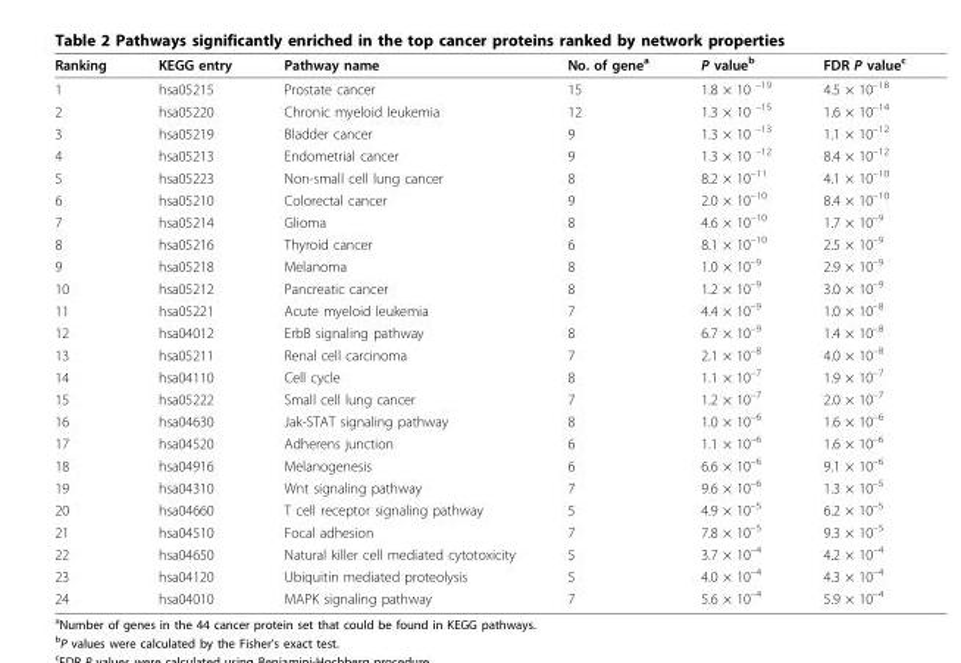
<table><thead><tr><td>Ranking</td><td>KEGG entry</td><td>Pathway name</td><td>No. of gene<sup>a</sup></td><td>P value<sup>b</sup></td><td>FDR P value<sup>c</sup></td></tr></thead><tbody><tr><td>1</td><td>hsa05215</td><td>Prostate cancer</td><td>15</td><td>1.8 × 10 <sup>–19</sup></td><td>4.5 × 10<sup>–18</sup></td></tr><tr><td>2</td><td>hsa05220</td><td>Chronic myeloid leukemia</td><td>12</td><td>1.3 × 10 <sup>–15</sup></td><td>1.6 × 10<sup>–14</sup></td></tr><tr><td>3</td><td>hsa05219</td><td>Bladder cancer</td><td>9</td><td>1.3 × 10 <sup>–13</sup></td><td>1.1 × 10<sup>–12</sup></td></tr><tr><td>4</td><td>hsa05213</td><td>Endometrial cancer</td><td>9</td><td>1.3 × 10 <sup>–12</sup></td><td>8.4 × 10<sup>–12</sup></td></tr><tr><td>5</td><td>hsa05223</td><td>Non-small cell lung cancer</td><td>8</td><td>8.2 × 10<sup>–11</sup></td><td>4.1 × 10<sup>–10</sup></td></tr><tr><td>6</td><td>hsa05210</td><td>Colorectal cancer</td><td>9</td><td>2.0 × 10<sup>–10</sup></td><td>8.4 × 10<sup>–10</sup></td></tr><tr><td>7</td><td>hsa05214</td><td>Glioma</td><td>8</td><td>4.6 × 10<sup>–10</sup></td><td>1.7 × 10<sup>–9</sup></td></tr><tr><td>8</td><td>hsa05216</td><td>Thyroid cancer</td><td>6</td><td>8.1 × 10<sup>–10</sup></td><td>2.5 × 10<sup>–9</sup></td></tr><tr><td>9</td><td>hsa05218</td><td>Melanoma</td><td>8</td><td>1.0 × 10<sup>–9</sup></td><td>2.9 × 10<sup>–9</sup></td></tr><tr><td>10</td><td>hsa05212</td><td>Pancreatic cancer</td><td>8</td><td>1.2 × 10<sup>–9</sup></td><td>3.0 × 10<sup>–9</sup></td></tr><tr><td>11</td><td>hsa05221</td><td>Acute myeloid leukemia</td><td>7</td><td>4.4 × 10<sup>–9</sup></td><td>1.0 × 10<sup>–8</sup></td></tr><tr><td>12</td><td>hsa04012</td><td>ErbB signaling pathway</td><td>8</td><td>6.7 × 10<sup>–9</sup></td><td>1.4 × 10<sup>–8</sup></td></tr><tr><td>13</td><td>hsa05211</td><td>Renal cell carcinoma</td><td>7</td><td>2.1 × 10<sup>–8</sup></td><td>4.0 × 10<sup>–8</sup></td></tr><tr><td>14</td><td>hsa04110</td><td>Cell cycle</td><td>8</td><td>1.1 × 10<sup>–7</sup></td><td>1.9 × 10<sup>–7</sup></td></tr><tr><td>15</td><td>hsa05222</td><td>Small cell lung cancer</td><td>7</td><td>1.2 × 10<sup>–7</sup></td><td>2.0 × 10<sup>–7</sup></td></tr><tr><td>16</td><td>hsa04630</td><td>Jak-STAT signaling pathway</td><td>8</td><td>1.0 × 10<sup>–6</sup></td><td>1.6 × 10<sup>–6</sup></td></tr><tr><td>17</td><td>hsa04520</td><td>Adherens junction</td><td>6</td><td>1.1 × 10<sup>–6</sup></td><td>1.6 × 10<sup>–6</sup></td></tr><tr><td>18</td><td>hsa04916</td><td>Melanogenesis</td><td>6</td><td>6.6 × 10<sup>–6</sup></td><td>9.1 × 10<sup>–6</sup></td></tr><tr><td>19</td><td>hsa04310</td><td>Wnt signaling pathway</td><td>7</td><td>9.6 × 10<sup>–6</sup></td><td>1.3 × 10<sup>–5</sup></td></tr><tr><td>20</td><td>hsa04660</td><td>T cell receptor signaling pathway</td><td>5</td><td>4.9 × 10<sup>–5</sup></td><td>6.2 × 10<sup>–5</sup></td></tr><tr><td>21</td><td>hsa04510</td><td>Focal adhesion</td><td>7</td><td>7.8 × 10<sup>–5</sup></td><td>9.3 × 10<sup>–5</sup></td></tr><tr><td>22</td><td>hsa04650</td><td>Natural killer cell mediated cytotoxicity</td><td>5</td><td>3.7 × 10<sup>–4</sup></td><td>4.2 × 10<sup>–4</sup></td></tr><tr><td>23</td><td>hsa04120</td><td>Ubiquitin mediated proteolysis</td><td>5</td><td>4.0 × 10<sup>–4</sup></td><td>4.3 × 10<sup>–4</sup></td></tr><tr><td>24</td><td>hsa04010</td><td>MAPK signaling pathway</td><td>7</td><td>5.6 × 10<sup>–4</sup></td><td>5.9 × 10<sup>–4</sup></td></tr></tbody></table>